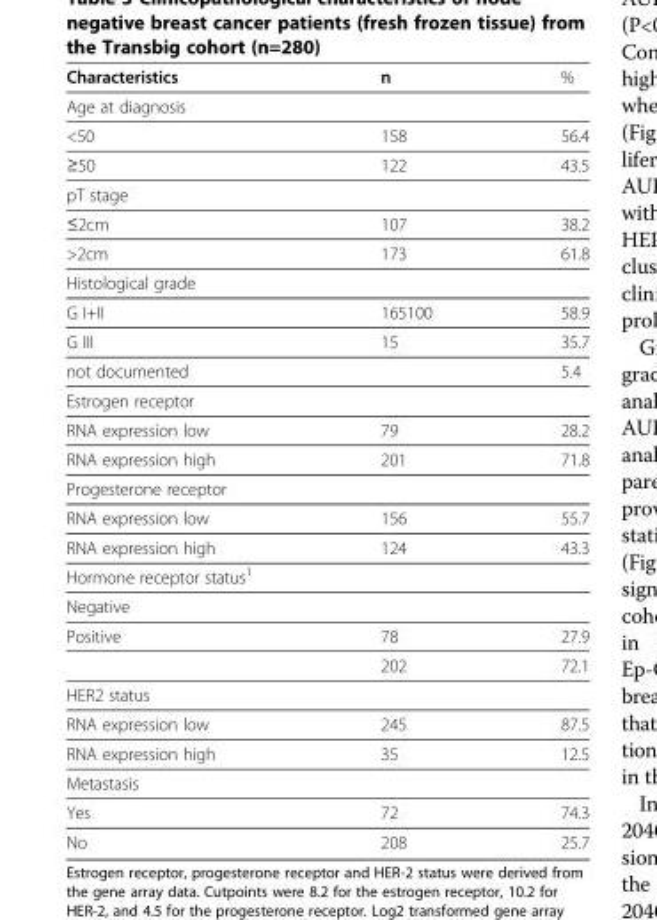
<table><thead><tr><td>Characteristics</td><td>n</td><td>%</td></tr></thead><tbody><tr><td colspan="3">Age at diagnosis</td></tr><tr><td>&lt;50</td><td>158</td><td>56.4</td></tr><tr><td>≥50</td><td>122</td><td>43.5</td></tr><tr><td colspan="3">pT stage</td></tr><tr><td>≤2cm</td><td>107</td><td>38.2</td></tr><tr><td>&gt;2cm</td><td>173</td><td>61.8</td></tr><tr><td colspan="3">Histological grade</td></tr><tr><td>G I+II</td><td>165100</td><td>58.9</td></tr><tr><td>G III</td><td>15</td><td>35.7</td></tr><tr><td>not documented</td><td></td><td>5.4</td></tr><tr><td colspan="3">Estrogen receptor</td></tr><tr><td>RNA expression low</td><td>79</td><td>28.2</td></tr><tr><td>RNA expression high</td><td>201</td><td>71.8</td></tr><tr><td colspan="3">Progesterone receptor</td></tr><tr><td>RNA expression low</td><td>156</td><td>55.7</td></tr><tr><td>RNA expression high</td><td>124</td><td>43.3</td></tr><tr><td colspan="3">Hormone receptor status<sup>1</sup></td></tr><tr><td colspan="3">Negative</td></tr><tr><td rowspan="2">Positive</td><td>78</td><td>27.9</td></tr><tr><td>202</td><td>72.1</td></tr><tr><td colspan="3">HER2 status</td></tr><tr><td>RNA expression low</td><td>245</td><td>87.5</td></tr><tr><td>RNA expression high</td><td>35</td><td>12.5</td></tr><tr><td colspan="3">Metastasis</td></tr><tr><td>Yes</td><td>72</td><td>74.3</td></tr><tr><td>No</td><td>208</td><td>25.7</td></tr></tbody></table>